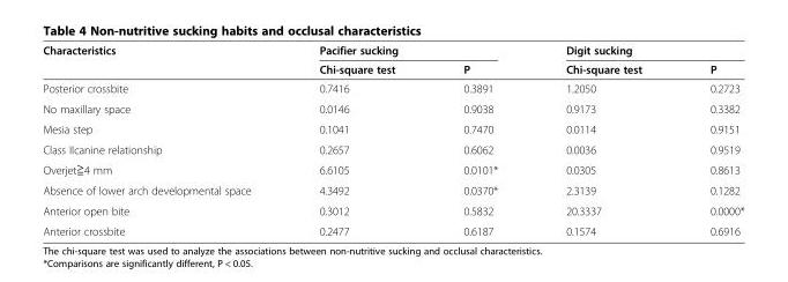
<table><thead><tr><td rowspan="2">Characteristics</td><td colspan="2">Pacifier sucking</td><td colspan="2">Digit sucking</td></tr><tr><td>Chi-square test</td><td>P</td><td>Chi-square test</td><td>P</td></tr></thead><tbody><tr><td>Posterior crossbite</td><td>0.7416</td><td>0.3891</td><td>1.2050</td><td>0.2723</td></tr><tr><td>No maxillary space</td><td>0.0146</td><td>0.9038</td><td>0.9173</td><td>0.3382</td></tr><tr><td>Mesia step</td><td>0.1041</td><td>0.7470</td><td>0.0114</td><td>0.9151</td></tr><tr><td>Class IIcanine relationship</td><td>0.2657</td><td>0.6062</td><td>0.0036</td><td>0.9519</td></tr><tr><td>Overjet≧4 mm</td><td>6.6105</td><td>0.0101*</td><td>0.0305</td><td>0.8613</td></tr><tr><td>Absence of lower arch developmental space</td><td>4.3492</td><td>0.0370*</td><td>2.3139</td><td>0.1282</td></tr><tr><td>Anterior open bite</td><td>0.3012</td><td>0.5832</td><td>20.3337</td><td>0.0000*</td></tr><tr><td>Anterior crossbite</td><td>0.2477</td><td>0.6187</td><td>0.1574</td><td>0.6916</td></tr></tbody></table>